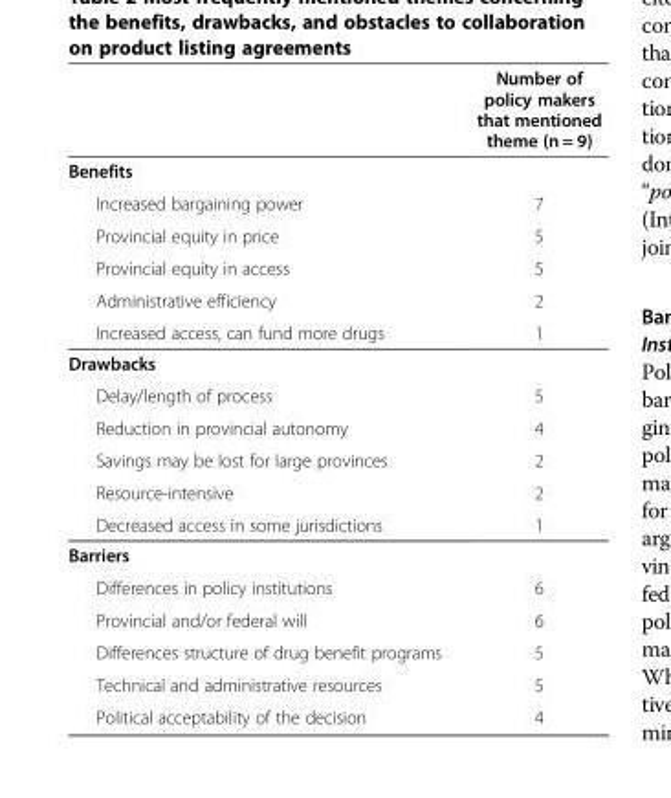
<table><thead><tr><td></td><td>Number of policy makers that mentioned theme (n = 9)</td></tr></thead><tbody><tr><td colspan="2">Benefits</td></tr><tr><td>Increased bargaining power</td><td>7</td></tr><tr><td>Provincial equity in price</td><td>5</td></tr><tr><td>Provincial equity in access</td><td>5</td></tr><tr><td>Administrative efficiency</td><td>2</td></tr><tr><td>Increased access, can fund more drugs</td><td>1</td></tr><tr><td colspan="2">Drawbacks</td></tr><tr><td>Delay/length of process</td><td>5</td></tr><tr><td>Reduction in provincial autonomy</td><td>4</td></tr><tr><td>Savings may be lost for large provinces</td><td>2</td></tr><tr><td>Resource-intensive</td><td>2</td></tr><tr><td>Decreased access in some jurisdictions</td><td>1</td></tr><tr><td colspan="2">Barriers</td></tr><tr><td>Differences in policy institutions</td><td>6</td></tr><tr><td>Provincial and/or federal will</td><td>6</td></tr><tr><td>Differences structure of drug benefit programs</td><td>5</td></tr><tr><td>Technical and administrative resources</td><td>5</td></tr><tr><td>Political acceptability of the decision</td><td>4</td></tr></tbody></table>